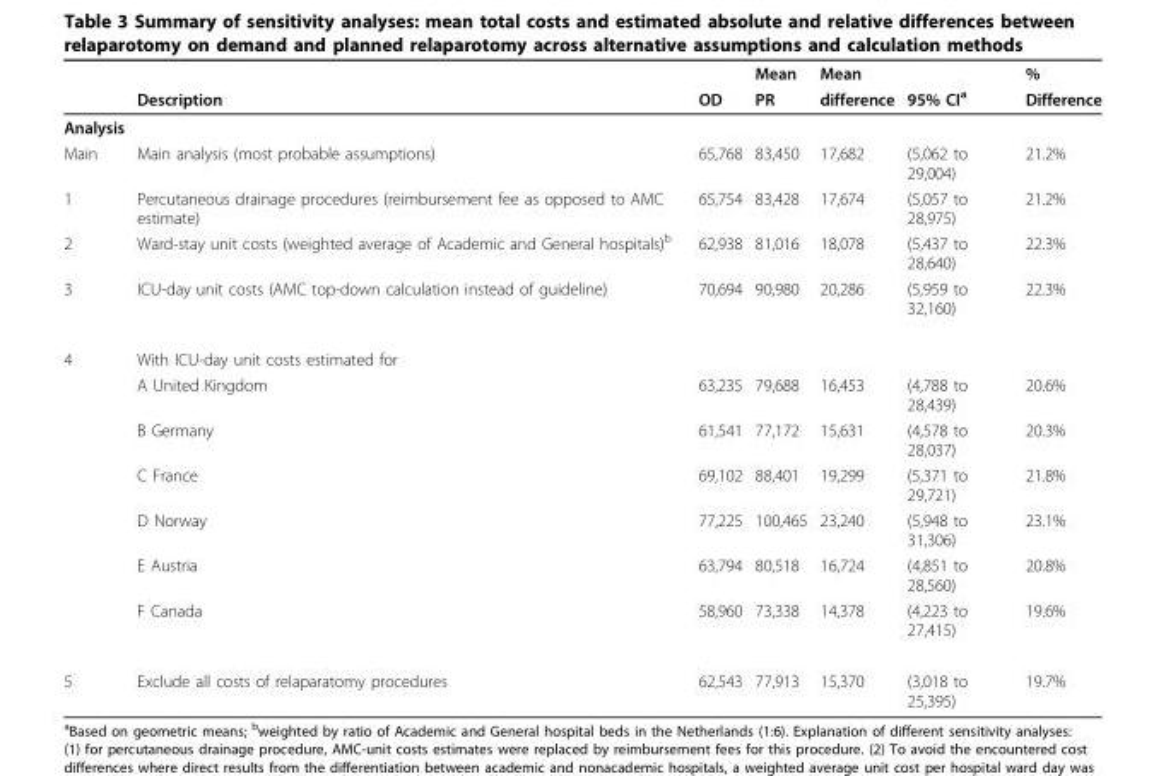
<table><thead><tr><td rowspan="2"></td><td rowspan="2">Description</td><td rowspan="2">OD</td><td rowspan="2">Mean PR</td><td rowspan="2">Mean difference</td><td rowspan="2">95% CI<sup>a</sup></td><td rowspan="2">% Difference</td></tr><tr></tr></thead><tbody><tr><td colspan="7">Analysis</td></tr><tr><td>Main</td><td>Main analysis (most probable assumptions)</td><td>65,768</td><td>83,450</td><td>17,682</td><td>(5,062 to 29,004)</td><td>21.2%</td></tr><tr><td>1</td><td>Percutaneous drainage procedures (reimbursement fee as opposed to AMC estimate)</td><td>65,754</td><td>83,428</td><td>17,674</td><td>(5,057 to 28,975)</td><td>21.2%</td></tr><tr><td>2</td><td>Ward-stay unit costs (weighted average of Academic and General hospitals)<sup>b</sup></td><td>62,938</td><td>81,016</td><td>18,078</td><td>(5,437 to 28,640)</td><td>22.3%</td></tr><tr><td>3</td><td>ICU-day unit costs (AMC top-down calculation instead of guideline)</td><td>70,694</td><td>90,980</td><td>20,286</td><td>(5,959 to 32,160)</td><td>22.3%</td></tr><tr><td rowspan="7">4</td><td>With ICU-day unit costs estimated for</td><td></td><td></td><td></td><td></td><td></td></tr><tr><td>A United Kingdom</td><td>63,235</td><td>79,688</td><td>16,453</td><td>(4,788 to 28,439)</td><td>20.6%</td></tr><tr><td>B Germany</td><td>61,541</td><td>77,172</td><td>15,631</td><td>(4,578 to 28,037)</td><td>20.3%</td></tr><tr><td>C France</td><td>69,102</td><td>88,401</td><td>19,299</td><td>(5,371 to 29,721)</td><td>21.8%</td></tr><tr><td>D Norway</td><td>77,225</td><td>100,465</td><td>23,240</td><td>(5,948 to 31,306)</td><td>23.1%</td></tr><tr><td>E Austria</td><td>63,794</td><td>80,518</td><td>16,724</td><td>(4,851 to 28,560)</td><td>20.8%</td></tr><tr><td>F Canada</td><td>58,960</td><td>73,338</td><td>14,378</td><td>(4,223 to 27,415)</td><td>19.6%</td></tr><tr><td>5</td><td>Exclude all costs of relaparatomy procedures</td><td>62,543</td><td>77,913</td><td>15,370</td><td>(3,018 to 25,395)</td><td>19.7%</td></tr></tbody></table>